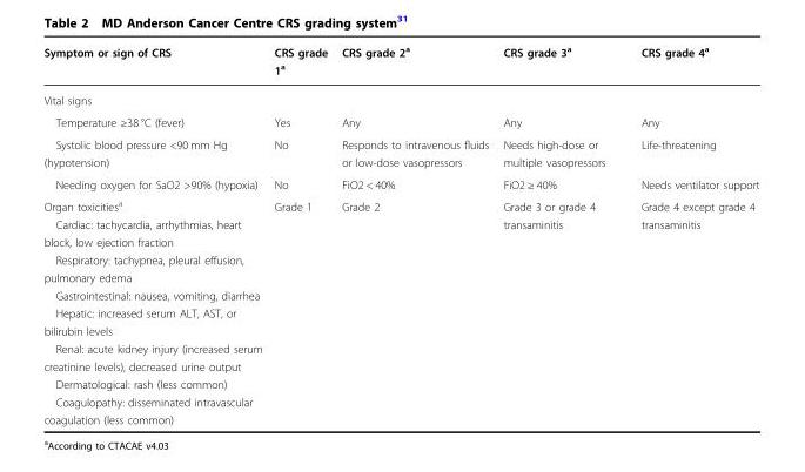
<table><thead><tr><td>Symptom or sign of CRS</td><td>CRS grade 1<sup>a</sup></td><td>CRS grade 2<sup>a</sup></td><td>CRS grade 3<sup>a</sup></td><td>CRS grade 4<sup>a</sup></td></tr></thead><tbody><tr><td colspan="5">Vital signs</td></tr><tr><td>Temperature ≥38 °C (fever)</td><td>Yes</td><td>Any</td><td>Any</td><td>Any</td></tr><tr><td>Systolic blood pressure &lt;90 mm Hg (hypotension)</td><td>No</td><td>Responds to intravenous fluids or low-dose vasopressors</td><td>Needs high-dose or multiple vasopressors</td><td>Life-threatening</td></tr><tr><td>Needing oxygen for SaO2 &gt;90% (hypoxia)</td><td>No</td><td>FiO2 &lt; 40%</td><td>FiO2 ≥ 40%</td><td>Needs ventilator support</td></tr><tr><td>Organ toxicities<sup>a</sup> Cardiac: tachycardia, arrhythmias, heart block, low ejection fraction Respiratory: tachypnea, pleural effusion, pulmonary edema Gastrointestinal: nausea, vomiting, diarrhea Hepatic: increased serum ALT, AST, or bilirubin levels Renal: acute kidney injury (increased serum creatinine levels), decreased urine output Dermatological: rash (less common) Coagulopathy: disseminated intravascular coagulation (less common)</td><td>Grade 1</td><td>Grade 2</td><td>Grade 3 or grade 4 transaminitis</td><td>Grade 4 except grade 4 transaminitis</td></tr></tbody></table>